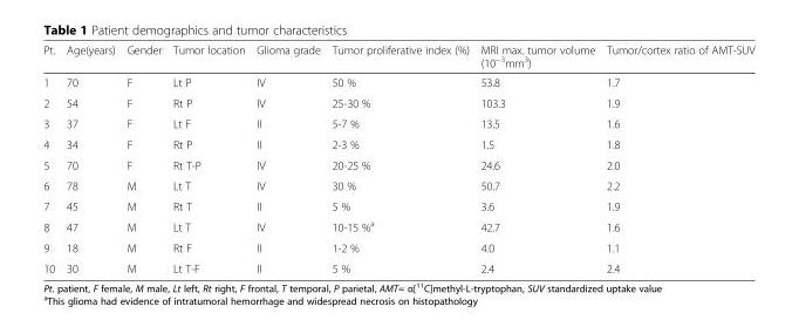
<table><thead><tr><td>Pt.</td><td>Age(years)</td><td>Gender</td><td>Tumor location</td><td>Glioma grade</td><td>Tumor proliferative index (%)</td><td>MRI max. tumor volume (10<sup>−3</sup>mm<sup>3</sup>)</td><td>Tumor/cortex ratio of AMT-SUV</td></tr></thead><tbody><tr><td>1</td><td>70</td><td>F</td><td>Lt P</td><td>IV</td><td>50 %</td><td>53.8</td><td>1.7</td></tr><tr><td>2</td><td>54</td><td>F</td><td>Rt P</td><td>IV</td><td>25-30 %</td><td>103.3</td><td>1.9</td></tr><tr><td>3</td><td>37</td><td>F</td><td>Lt F</td><td>II</td><td>5-7 %</td><td>13.5</td><td>1.6</td></tr><tr><td>4</td><td>34</td><td>F</td><td>Rt P</td><td>II</td><td>2-3 %</td><td>1.5</td><td>1.8</td></tr><tr><td>5</td><td>70</td><td>F</td><td>Rt T-P</td><td>IV</td><td>20-25 %</td><td>24.6</td><td>2.0</td></tr><tr><td>6</td><td>78</td><td>M</td><td>Lt T</td><td>IV</td><td>30 %</td><td>50.7</td><td>2.2</td></tr><tr><td>7</td><td>45</td><td>M</td><td>Rt T</td><td>II</td><td>5 %</td><td>3.6</td><td>1.9</td></tr><tr><td>8</td><td>47</td><td>M</td><td>Lt T</td><td>IV</td><td>10-15 %<sup>a</sup></td><td>42.7</td><td>1.6</td></tr><tr><td>9</td><td>18</td><td>M</td><td>Rt F</td><td>II</td><td>1-2 %</td><td>4.0</td><td>1.1</td></tr><tr><td>10</td><td>30</td><td>M</td><td>Lt T-F</td><td>II</td><td>5 %</td><td>2.4</td><td>2.4</td></tr></tbody></table>